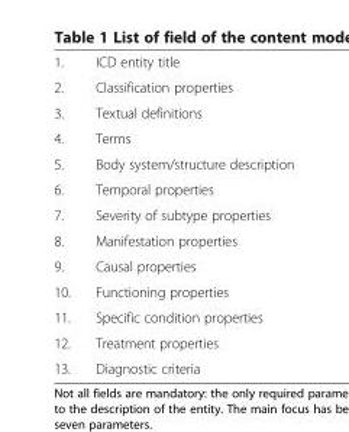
<table><tbody><tr><td>1.</td><td>ICD entity title</td></tr><tr><td>2.</td><td>Classification properties</td></tr><tr><td>3.</td><td>Textual definitions</td></tr><tr><td>4.</td><td>Terms</td></tr><tr><td>5.</td><td>Body system/structure description</td></tr><tr><td>6.</td><td>Temporal properties</td></tr><tr><td>7.</td><td>Severity of subtype properties</td></tr><tr><td>8.</td><td>Manifestation properties</td></tr><tr><td>9.</td><td>Causal properties</td></tr><tr><td>10.</td><td>Functioning properties</td></tr><tr><td>11.</td><td>Specific condition properties</td></tr><tr><td>12.</td><td>Treatment properties</td></tr><tr><td>13.</td><td>Diagnostic criteria</td></tr></tbody></table>